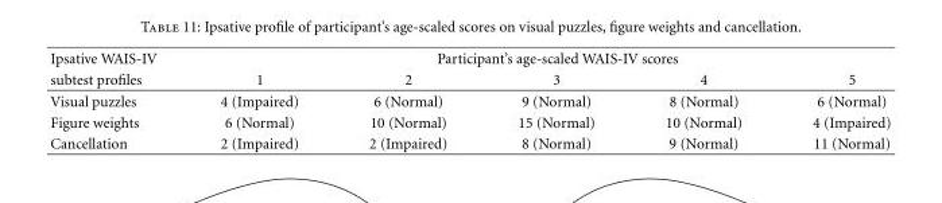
<table><thead><tr><td rowspan="2">Ipsative WAIS-IV subtest profiles</td><td colspan="5">Participant’s age-scaled WAIS-IV scores</td></tr><tr><td>1</td><td>2</td><td>3</td><td>4</td><td>5</td></tr></thead><tbody><tr><td>Visual puzzles</td><td>4 (Impaired)</td><td>6 (Normal)</td><td>9 (Normal)</td><td>8 (Normal)</td><td>6 (Normal)</td></tr><tr><td>Figure weights</td><td>6 (Normal)</td><td>10 (Normal)</td><td>15 (Normal)</td><td>10 (Normal)</td><td>4 (Impaired)</td></tr><tr><td>Cancellation</td><td>2 (Impaired)</td><td>2 (Impaired)</td><td>8 (Normal)</td><td>9 (Normal)</td><td>11 (Normal)</td></tr></tbody></table>